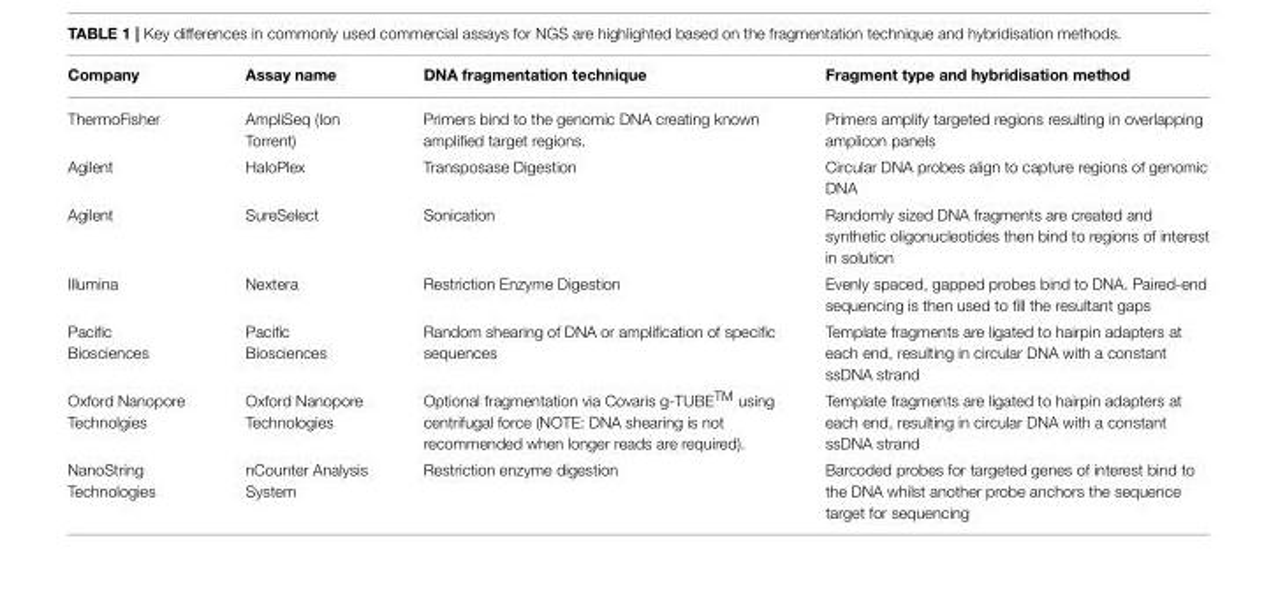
<table><thead><tr><td>Company</td><td>Assay name</td><td>DNA fragmentation technique</td><td>Fragment type and hybridisation method</td></tr></thead><tbody><tr><td>ThermoFisher</td><td>AmpliSeq (Ion Torrent)</td><td>Primers bind to the genomic DNA creating known amplified target regions.</td><td>Primers amplify targeted regions resulting in overlapping amplicon panels</td></tr><tr><td>Agilent</td><td>HaloPlex</td><td>Transposase Digestion</td><td>Circular DNA probes align to capture regions of genomic DNA</td></tr><tr><td>Agilent</td><td>SureSelect</td><td>Sonication</td><td>Randomly sized DNA fragments are created and synthetic oligonucleotides then bind to regions of interest in solution</td></tr><tr><td>Illumina</td><td>Nextera</td><td>Restriction Enzyme Digestion</td><td>Evenly spaced, gapped probes bind to DNA. Paired-end sequencing is then used to fill the resultant gaps</td></tr><tr><td>Pacific Biosciences</td><td>Pacific Biosciences</td><td>Random shearing of DNA or amplification of specific sequences</td><td>Template fragments are ligated to hairpin adapters at each end, resulting in circular DNA with a constant ssDNA strand</td></tr><tr><td>Oxford Nanopore Technolgies</td><td>Oxford Nanopore Technologies</td><td>Optional fragmentation via Covaris g-TUBETM using centrifugal force (NOTE: DNA shearing is not recommended when longer reads are required).</td><td>Template fragments are ligated to hairpin adapters at each end, resulting in circular DNA with a constant ssDNA strand</td></tr><tr><td>NanoString Technologies</td><td>nCounter Analysis System</td><td>Restriction enzyme digestion</td><td>Barcoded probes for targeted genes of interest bind to the DNA whilst another probe anchors the sequence target for sequencing</td></tr></tbody></table>